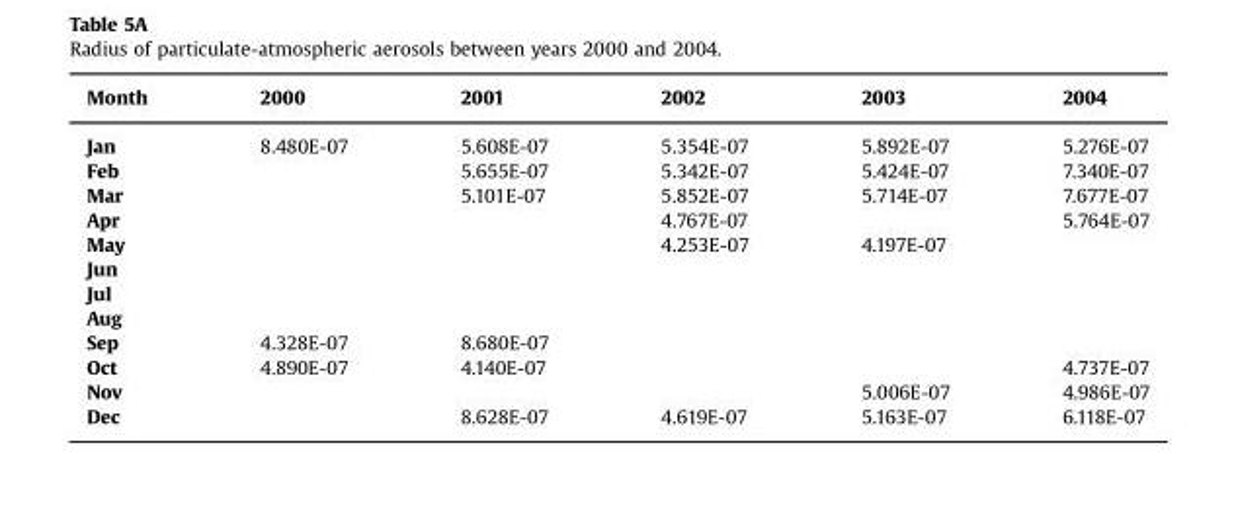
<table><thead><tr><td>Month</td><td>2000</td><td>2001</td><td>2002</td><td>2003</td><td>2004</td></tr></thead><tbody><tr><td>Jan</td><td>8.480E-07</td><td>5.608E-07</td><td>5.354E-07</td><td>5.892E-07</td><td>5.276E-07</td></tr><tr><td>Feb</td><td></td><td>5.655E-07</td><td>5.342E-07</td><td>5.424E-07</td><td>7.340E-07</td></tr><tr><td>Mar</td><td></td><td>5.101E-07</td><td>5.852E-07</td><td>5.714E-07</td><td>7.677E-07</td></tr><tr><td>Apr</td><td></td><td></td><td>4.767E-07</td><td></td><td>5.764E-07</td></tr><tr><td>May</td><td></td><td></td><td>4.253E-07</td><td>4.197E-07</td><td></td></tr><tr><td colspan="6">Jun</td></tr><tr><td colspan="6">Jul</td></tr><tr><td colspan="6">Aug</td></tr><tr><td>Sep</td><td>4.328E-07</td><td>8.680E-07</td><td></td><td></td><td></td></tr><tr><td>Oct</td><td>4.890E-07</td><td>4.140E-07</td><td></td><td></td><td>4.737E-07</td></tr><tr><td>Nov</td><td></td><td></td><td></td><td>5.006E-07</td><td>4.986E-07</td></tr><tr><td>Dec</td><td></td><td>8.628E-07</td><td>4.619E-07</td><td>5.163E-07</td><td>6.118E-07</td></tr></tbody></table>